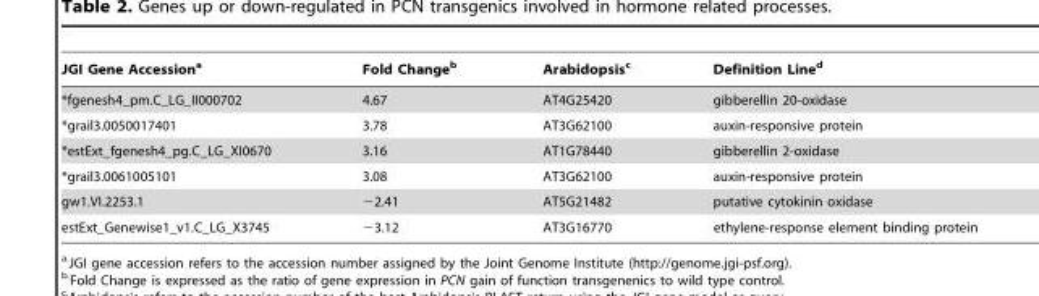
<table><thead><tr><td>JGI Gene Accession<sup>a</sup></td><td>Fold Change<sup>b</sup></td><td>Arabidopsis<sup>c</sup></td><td>Definition Line<sup>d</sup></td></tr></thead><tbody><tr><td>*fgenesh4_pm.C_LG_II000702</td><td>4.67</td><td>AT4G25420</td><td>gibberellin 20-oxidase</td></tr><tr><td>*grail3.0050017401</td><td>3.78</td><td>AT3G62100</td><td>auxin-responsive protein</td></tr><tr><td>*estExt_fgenesh4_pg.C_LG_XI0670</td><td>3.16</td><td>AT1G78440</td><td>gibberellin 2-oxidase</td></tr><tr><td>*grail3.0061005101</td><td>3.08</td><td>AT3G62100</td><td>auxin-responsive protein</td></tr><tr><td>gw1.VI.2253.1</td><td>−2.41</td><td>AT5G21482</td><td>putative cytokinin oxidase</td></tr><tr><td>estExt_Genewise1_v1.C_LG_X3745</td><td>−3.12</td><td>AT3G16770</td><td>ethylene-response element binding protein</td></tr></tbody></table>